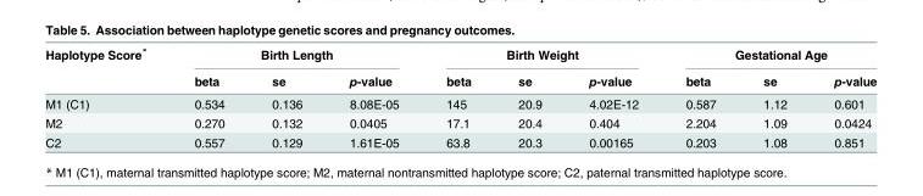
<table><thead><tr><td rowspan="2">Haplotype Score*</td><td colspan="3">Birth Length</td><td colspan="3">Birth Weight</td><td colspan="3">Gestational Age</td></tr><tr><td>beta</td><td>se</td><td>p-value</td><td>beta</td><td>se</td><td>p-value</td><td>beta</td><td>se</td><td>p-value</td></tr></thead><tbody><tr><td>M1 (C1)</td><td>0.534</td><td>0.136</td><td>8.08E-05</td><td>145</td><td>20.9</td><td>4.02E-12</td><td>0.587</td><td>1.12</td><td>0.601</td></tr><tr><td>M2</td><td>0.270</td><td>0.132</td><td>0.0405</td><td>17.1</td><td>20.4</td><td>0.404</td><td>2.204</td><td>1.09</td><td>0.0424</td></tr><tr><td>C2</td><td>0.557</td><td>0.129</td><td>1.61E-05</td><td>63.8</td><td>20.3</td><td>0.00165</td><td>0.203</td><td>1.08</td><td>0.851</td></tr></tbody></table>